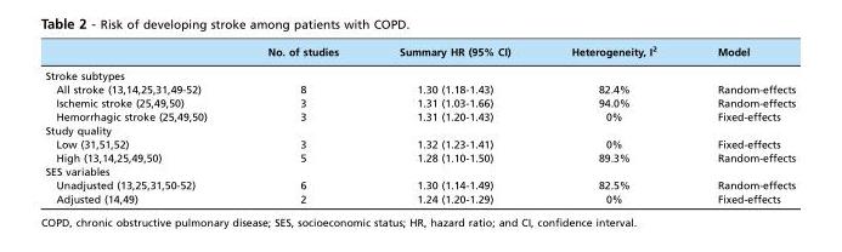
<table><thead><tr><td></td><td>No. of studies</td><td>Summary HR (95% CI)</td><td>Heterogeneity, I<sup>2</sup></td><td>Model</td></tr></thead><tbody><tr><td colspan="5">Stroke subtypes</td></tr><tr><td>All stroke (13,14,25,31,49-52)</td><td>8</td><td>1.30 (1.18-1.43)</td><td>82.4%</td><td>Random-effects</td></tr><tr><td>Ischemic stroke (25,49,50)</td><td>3</td><td>1.31 (1.03-1.66)</td><td>94.0%</td><td>Random-effects</td></tr><tr><td>Hemorrhagic stroke (25,49,50)</td><td>3</td><td>1.31 (1.20-1.43)</td><td>0%</td><td>Fixed-effects</td></tr><tr><td colspan="5">Study quality</td></tr><tr><td>Low (31,51,52)</td><td>3</td><td>1.32 (1.23-1.41)</td><td>0%</td><td>Fixed-effects</td></tr><tr><td>High (13,14,25,49,50)</td><td>5</td><td>1.28 (1.10-1.50)</td><td>89.3%</td><td>Random-effects</td></tr><tr><td colspan="5">SES variables</td></tr><tr><td>Unadjusted (13,25,31,50-52)</td><td>6</td><td>1.30 (1.14-1.49)</td><td>82.5%</td><td>Random-effects</td></tr><tr><td>Adjusted (14,49)</td><td>2</td><td>1.24 (1.20-1.29)</td><td>0%</td><td>Fixed-effects</td></tr></tbody></table>